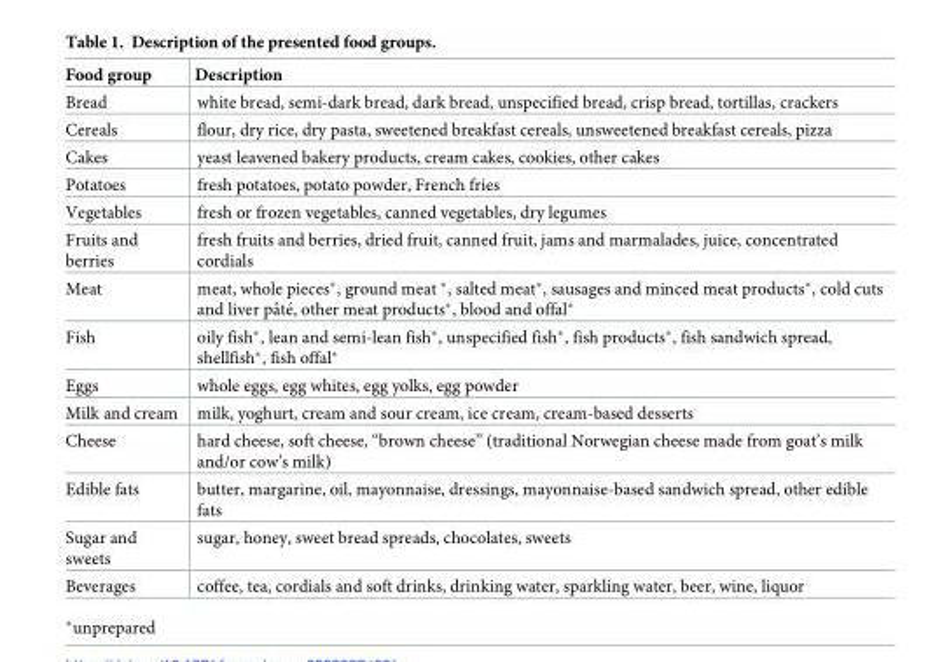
<table><thead><tr><td>Food group</td><td>Description</td></tr></thead><tbody><tr><td>Bread</td><td>white bread, semi-dark bread, dark bread, unspecified bread, crisp bread, tortillas, crackers</td></tr><tr><td>Cereals</td><td>flour, dry rice, dry pasta, sweetened breakfast cereals, unsweetened breakfast cereals, pizza</td></tr><tr><td>Cakes</td><td>yeast leavened bakery products, cream cakes, cookies, other cakes</td></tr><tr><td>Potatoes</td><td>fresh potatoes, potato powder, French fries</td></tr><tr><td>Vegetables</td><td>fresh or frozen vegetables, canned vegetables, dry legumes</td></tr><tr><td>Fruits and berries</td><td>fresh fruits and berries, dried fruit, canned fruit, jams and marmalades, juice, concentrated cordials</td></tr><tr><td>Meat</td><td>meat, whole pieces�, ground meat �, salted meat�, sausages and minced meat products�, cold cuts and liver paˆte´, other meat products�, blood and offal�</td></tr><tr><td>Fish</td><td>oily fish*, lean and semi-lean fish*, unspecified fish*, fish products*, fish sandwich spread, shellfish*, fish offal*</td></tr><tr><td>Eggs</td><td>whole eggs, egg whites, egg yolks, egg powder</td></tr><tr><td>Milk and cream</td><td>milk, yoghurt, cream and sour cream, ice cream, cream-based desserts</td></tr><tr><td>Cheese</td><td>hard cheese, soft cheese, “brown cheese” (traditional Norwegian cheese made from goat’s milk and/or cow’s milk)</td></tr><tr><td>Edible fats</td><td>butter, margarine, oil, mayonnaise, dressings, mayonnaise-based sandwich spread, other edible fats</td></tr><tr><td>Sugar and sweets</td><td>sugar, honey, sweet bread spreads, chocolates, sweets</td></tr><tr><td>Beverages</td><td>coffee, tea, cordials and soft drinks, drinking water, sparkling water, beer, wine, liquor</td></tr></tbody></table>